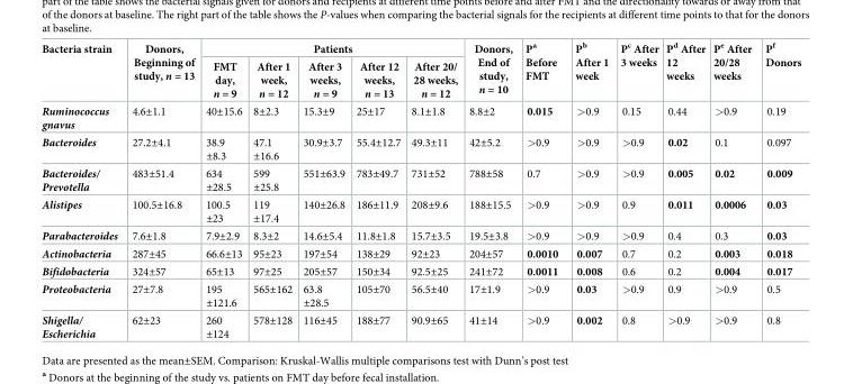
<table><thead><tr><td rowspan="2">Bacteria strain</td><td rowspan="2">Donors, Beginning of study, n = 13</td><td colspan="5">Patients</td><td rowspan="2">Donors, End of study, n = 10</td><td rowspan="2">P<sup>a</sup> Before FMT</td><td rowspan="2">P<sup>b</sup> After 1 week</td><td rowspan="2">P<sup>c</sup> After 3 weeks</td><td rowspan="2">P<sup>d</sup> After 12 weeks</td><td rowspan="2">P<sup>e</sup> After 20/28 weeks</td><td rowspan="2">P<sup>f</sup> Donors</td></tr><tr><td>FMT day, n = 9</td><td>After 1 week, n = 12</td><td>After 3 weeks, n = 9</td><td>After 12 weeks, n = 13</td><td>After 20/ 28 weeks, n = 12</td></tr></thead><tbody><tr><td>Ruminococcus gnavus</td><td>4.6±1.1</td><td>40±15.6</td><td>8±2.3</td><td>15.3±9</td><td>25±17</td><td>8.1±1.8</td><td>8.8±2</td><td>0.015</td><td>&gt;0.9</td><td>0.15</td><td>0.44</td><td>&gt;0.9</td><td>0.19</td></tr><tr><td>Bacteroides</td><td>27.2±4.1</td><td>38.9 ±8.3</td><td>47.1 ±16.6</td><td>30.9±3.7</td><td>55.4±12.7</td><td>49.3±11</td><td>42±5.2</td><td>&gt;0.9</td><td>&gt;0.9</td><td>&gt;0.9</td><td>0.02</td><td>0.1</td><td>0.097</td></tr><tr><td>Bacteroides/ Prevotella</td><td>483±51.4</td><td>634 ±28.5</td><td>599 ±25.8</td><td>551±63.9</td><td>783±49.7</td><td>731±52</td><td>788±58</td><td>0.7</td><td>&gt;0.9</td><td>&gt;0.9</td><td>0.005</td><td>0.02</td><td>0.009</td></tr><tr><td>Alistipes</td><td>100.5±16.8</td><td>100.5 ±23</td><td>119 ±17.4</td><td>140±26.8</td><td>186±11.9</td><td>208±9.6</td><td>188±15.5</td><td>&gt;0.9</td><td>&gt;0.9</td><td>0.9</td><td>0.011</td><td>0.0006</td><td>0.03</td></tr><tr><td>Parabacteroides</td><td>7.6±1.8</td><td>7.9±2.9</td><td>8.3±2</td><td>14.6±5.4</td><td>11.8±1.8</td><td>15.7±3.5</td><td>19.5±3.8</td><td>&gt;0.9</td><td>&gt;0.9</td><td>&gt;0.9</td><td>0.4</td><td>0.3</td><td>0.03</td></tr><tr><td>Actinobacteria</td><td>287±45</td><td>66.6±13</td><td>95±23</td><td>197±54</td><td>138±29</td><td>92±23</td><td>204±57</td><td>0.0010</td><td>0.007</td><td>0.7</td><td>0.2</td><td>0.003</td><td>0.018</td></tr><tr><td>Bifidobacteria</td><td>324±57</td><td>65±13</td><td>97±25</td><td>205±57</td><td>150±34</td><td>92.5±25</td><td>241±72</td><td>0.0011</td><td>0.008</td><td>0.6</td><td>0.2</td><td>0.004</td><td>0.017</td></tr><tr><td>Proteobacteria</td><td>27±7.8</td><td>195 ±121.6</td><td>565±162</td><td>63.8 ±28.5</td><td>105±70</td><td>56.5±40</td><td>17±1.9</td><td>&gt;0.9</td><td>0.03</td><td>&gt;0.9</td><td>0.9</td><td>&gt;0.9</td><td>0.5</td></tr><tr><td>Shigella/ Escherichia</td><td>62±23</td><td>260 ±124</td><td>578±128</td><td>116±45</td><td>188±77</td><td>90.9±65</td><td>41±14</td><td>&gt;0.9</td><td>0.002</td><td>0.8</td><td>&gt;0.9</td><td>&gt;0.9</td><td>0.8</td></tr></tbody></table>